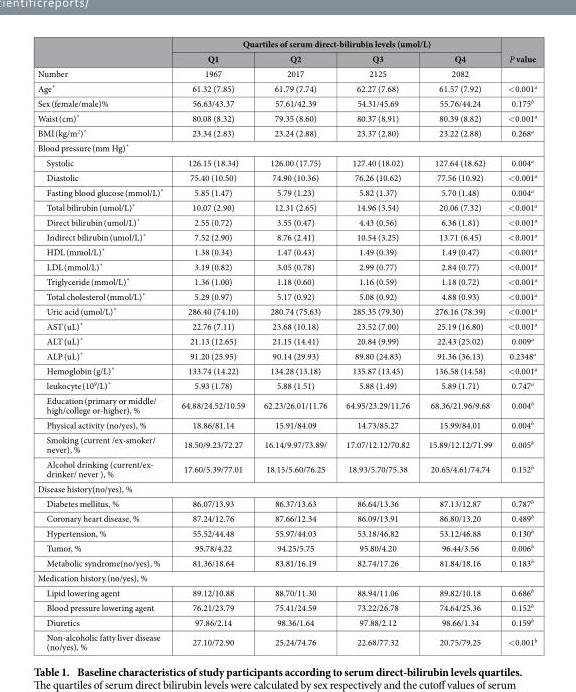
<table><thead><tr><td rowspan="2"></td><td colspan="4">Quartiles of serum direct-bilirubin levels (umol/L)</td><td rowspan="2">P value</td></tr><tr><td>Q1</td><td>Q2</td><td>Q3</td><td>Q4</td></tr></thead><tbody><tr><td>Number</td><td>1967</td><td>2017</td><td>2125</td><td>2082</td><td></td></tr><tr><td>Age*</td><td>61.32 (7.85)</td><td>61.79 (7.74)</td><td>62.27 (7.68)</td><td>61.57 (7.92)</td><td>&lt; 0.001<sup>a</sup></td></tr><tr><td>Sex (female/male)%</td><td>56.63/43.37</td><td>57.61/42.39</td><td>54.31/45.69</td><td>55.76/44.24</td><td>0.175<sup>b</sup></td></tr><tr><td>Waist (cm)*</td><td>80.08 (8.32)</td><td>79.35 (8.60)</td><td>80.37 (8.91)</td><td>80.39 (8.82)</td><td>&lt; 0.001<sup>a</sup></td></tr><tr><td>BMI (kg/m<sup>2</sup>)*</td><td>23.34 (2.83)</td><td>23.24 (2.88)</td><td>23.37 (2.80)</td><td>23.22 (2.88)</td><td>0.268<sup>a</sup></td></tr><tr><td colspan="6">Blood pressure (mm Hg)*</td></tr><tr><td>Systolic</td><td>126.15 (18.34)</td><td>126.00 (17.75)</td><td>127.40 (18.02)</td><td>127.64 (18.62)</td><td>0.004<sup>a</sup></td></tr><tr><td>Diastolic</td><td>75.40 (10.50)</td><td>74.90 (10.36)</td><td>76.26 (10.62)</td><td>77.56 (10.92)</td><td>&lt; 0.001<sup>a</sup></td></tr><tr><td>Fasting blood glucose (mmol/L)*</td><td>5.85 (1.47)</td><td>5.79 (1.23)</td><td>5.82 (1.37)</td><td>5.70 (1.48)</td><td>0.004<sup>a</sup></td></tr><tr><td>Total bilirubin (umol/L)*</td><td>10.07 (2.90)</td><td>12.31 (2.65)</td><td>14.96 (3.54)</td><td>20.06 (7.32)</td><td>&lt; 0.001<sup>a</sup></td></tr><tr><td>Direct bilirubin (umol/L)*</td><td>2.55 (0.72)</td><td>3.55 (0.47)</td><td>4.43 (0.56)</td><td>6.36 (1.81)</td><td>&lt; 0.001<sup>a</sup></td></tr><tr><td>Indirect bilirubin (umol/L)*</td><td>7.52 (2.90)</td><td>8.76 (2.41)</td><td>10.54 (3.25)</td><td>13.71 (6.45)</td><td>&lt; 0.001<sup>a</sup></td></tr><tr><td>HDL (mmol/L)*</td><td>1.38 (0.34)</td><td>1.47 (0.43)</td><td>1.49 (0.39)</td><td>1.49 (0.47)</td><td>&lt; 0.001<sup>a</sup></td></tr><tr><td>LDL (mmol/L)*</td><td>3.19 (0.82)</td><td>3.05 (0.78)</td><td>2.99 (0.77)</td><td>2.84 (0.77)</td><td>&lt; 0.001<sup>a</sup></td></tr><tr><td>Triglyceride (mmol/L)*</td><td>1.36 (1.00)</td><td>1.18 (0.60)</td><td>1.16 (0.59)</td><td>1.18 (0.72)</td><td>&lt; 0.001<sup>a</sup></td></tr><tr><td>Total cholesterol (mmol/L)*</td><td>5.29 (0.97)</td><td>5.17 (0.92)</td><td>5.08 (0.92)</td><td>4.88 (0.93)</td><td>&lt; 0.001<sup>a</sup></td></tr><tr><td>Uric acid (umol/L)*</td><td>286.40 (74.10)</td><td>280.74 (75.63)</td><td>285.35 (79.30)</td><td>276.16 (78.39)</td><td>&lt; 0.001<sup>a</sup></td></tr><tr><td>AST (uL)*</td><td>22.76 (7.11)</td><td>23.68 (10.18)</td><td>23.52 (7.00)</td><td>25.19 (16.80)</td><td>&lt; 0.001<sup>a</sup></td></tr><tr><td>ALT (uL)*</td><td>21.13 (12.65)</td><td>21.15 (14.41)</td><td>20.84 (9.99)</td><td>22.43 (25.02)</td><td>0.009<sup>a</sup></td></tr><tr><td>ALP (uL)*</td><td>91.20 (25.95)</td><td>90.14 (29.93)</td><td>89.80 (24.83)</td><td>91.36 (36.13)</td><td>0.2348<sup>a</sup></td></tr><tr><td>Hemoglobin (g/L)*</td><td>133.74 (14.22)</td><td>134.28 (13.18)</td><td>135.87 (13.45)</td><td>136.58 (14.58)</td><td>&lt; 0.001<sup>a</sup></td></tr><tr><td>leukocyte (10<sup>9</sup>/L)*</td><td>5.93 (1.78)</td><td>5.88 (1.51)</td><td>5.88 (1.49)</td><td>5.89 (1.71)</td><td>0.747<sup>a</sup></td></tr><tr><td>Education (primary or middle/ high/college or-higher), %</td><td>64.88/24.52/10.59</td><td>62.23/26.01/11.76</td><td>64.95/23.29/11.76</td><td>68.36/21.96/9.68</td><td>0.004<sup>b</sup></td></tr><tr><td>Physical activity (no/yes), %</td><td>18.86/81.14</td><td>15.91/84.09</td><td>14.73/85.27</td><td>15.99/84.01</td><td>0.004<sup>b</sup></td></tr><tr><td>Smoking (current /ex-smoker/ never), %</td><td>18.50/9.23/72.27</td><td>16.14/9.97/73.89/</td><td>17.07/12.12/70.82</td><td>15.89/12.12/71.99</td><td>0.005<sup>b</sup></td></tr><tr><td>Alcohol drinking (current/ex- drinker/ never ), %</td><td>17.60/5.39/77.01</td><td>18.15/5.60/76.25</td><td>18.93/5.70/75.38</td><td>20.65/4.61/74.74</td><td>0.152<sup>b</sup></td></tr><tr><td colspan="6">Disease history(no/yes), %</td></tr><tr><td>Diabetes mellitus, %</td><td>86.07/13.93</td><td>86.37/13.63</td><td>86.64/13.36</td><td>87.13/12.87</td><td>0.787<sup>b</sup></td></tr><tr><td>Coronary heart disease, %</td><td>87.24/12.76</td><td>87.66/12.34</td><td>86.09/13.91</td><td>86.80/13.20</td><td>0.489<sup>b</sup></td></tr><tr><td>Hypertension, %</td><td>55.52/44.48</td><td>55.97/44.03</td><td>53.18/46.82</td><td>53.12/46.88</td><td>0.130<sup>b</sup></td></tr><tr><td>Tumor, %</td><td>95.78/4.22</td><td>94.25/5.75</td><td>95.80/4.20</td><td>96.44/3.56</td><td>0.006<sup>b</sup></td></tr><tr><td>Metabolic syndrome(no/yes), %</td><td>81.36/18.64</td><td>83.81/16.19</td><td>82.74/17.26</td><td>81.84/18.16</td><td>0.183<sup>b</sup></td></tr><tr><td colspan="6">Medication history.(no/yes), %</td></tr><tr><td>Lipid lowering agent</td><td>89.12/10.88</td><td>88.70/11.30</td><td>88.94/11.06</td><td>89.82/10.18</td><td>0.686<sup>b</sup></td></tr><tr><td>Blood pressure lowering agent</td><td>76.21/23.79</td><td>75.41/24.59</td><td>73.22/26.78</td><td>74.64/25.36</td><td>0.152<sup>b</sup></td></tr><tr><td>Diuretics</td><td>97.86/2.14</td><td>98.36/1.64</td><td>97.88/2.12</td><td>98.66/1.34</td><td>0.159<sup>b</sup></td></tr><tr><td>Non-alcoholic fatty liver disease (no/yes), %</td><td>27.10/72.90</td><td>25.24/74.76</td><td>22.68/77.32</td><td>20.75/79.25</td><td>&lt; 0.001<sup>b</sup></td></tr></tbody></table>